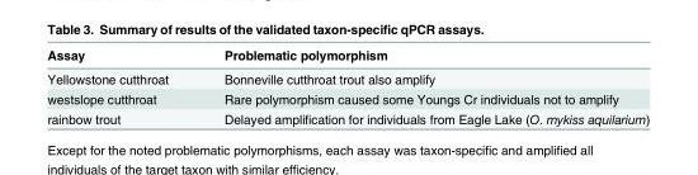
<table><thead><tr><td>Assay</td><td>Problematic polymorphism</td></tr></thead><tbody><tr><td>Yellowstone cutthroat</td><td>Bonneville cutthroat trout also amplify</td></tr><tr><td>westslope cutthroat</td><td>Rare polymorphism caused some Youngs Cr individuals not to amplify</td></tr><tr><td>rainbow trout</td><td>Delayed amplification for individuals from Eagle Lake (O. mykiss aquilarium)</td></tr></tbody></table>